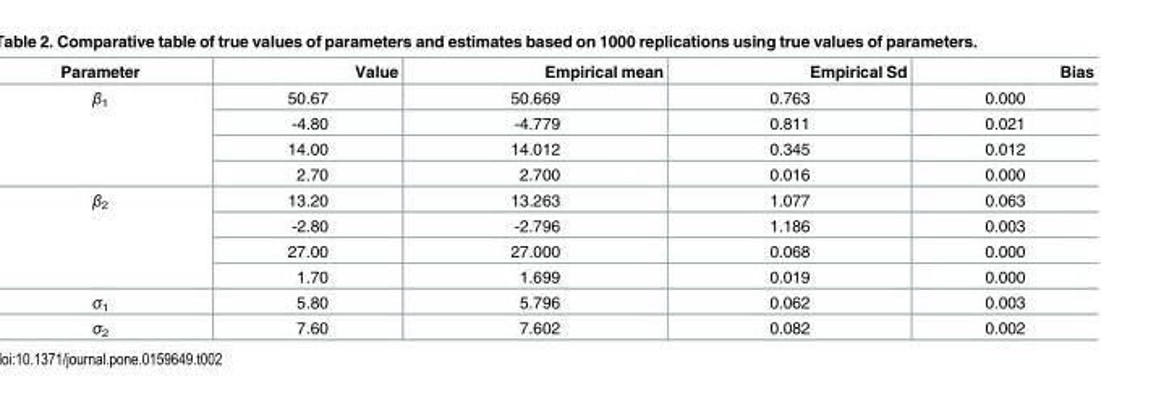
<table><thead><tr><td>Parameter</td><td>Value</td><td>Empirical mean</td><td>Empirical Sd</td><td>Bias</td></tr></thead><tbody><tr><td rowspan="4">β<sub>1</sub></td><td>50.67</td><td>50.669</td><td>0.763</td><td>0.000</td></tr><tr><td>-4.80</td><td>-4.779</td><td>0.811</td><td>0.021</td></tr><tr><td>14.00</td><td>14.012</td><td>0.345</td><td>0.012</td></tr><tr><td>2.70</td><td>2.700</td><td>0.016</td><td>0.000</td></tr><tr><td rowspan="4">β<sub>2</sub></td><td>13.20</td><td>13.263</td><td>1.077</td><td>0.063</td></tr><tr><td>-2.80</td><td>-2.796</td><td>1.186</td><td>0.003</td></tr><tr><td>27.00</td><td>27.000</td><td>0.068</td><td>0.000</td></tr><tr><td>1.70</td><td>1.699</td><td>0.019</td><td>0.000</td></tr><tr><td>σ<sub>1</sub></td><td>5.80</td><td>5.796</td><td>0.062</td><td>0.003</td></tr><tr><td>σ<sub>2</sub></td><td>7.60</td><td>7.602</td><td>0.082</td><td>0.002</td></tr></tbody></table>